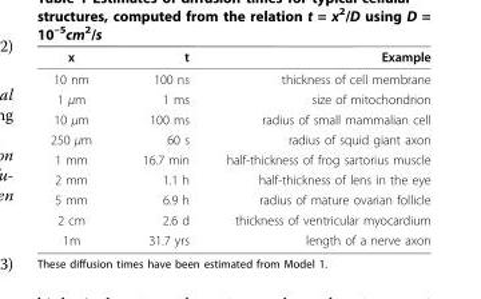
<table><thead><tr><td>x</td><td>t</td><td>Example</td></tr></thead><tbody><tr><td>10 nm</td><td>100 ns</td><td>thickness of cell membrane</td></tr><tr><td>1 μm</td><td>1 ms</td><td>size of mitochondrion</td></tr><tr><td>10 μm</td><td>100 ms</td><td>radius of small mammalian cell</td></tr><tr><td>250 μm</td><td>60 s</td><td>radius of squid giant axon</td></tr><tr><td>1 mm</td><td>16.7 min</td><td>half-thickness of frog sartorius muscle</td></tr><tr><td>2 mm</td><td>1.1 h</td><td>half-thickness of lens in the eye</td></tr><tr><td>5 mm</td><td>6.9 h</td><td>radius of mature ovarian follicle</td></tr><tr><td>2 cm</td><td>2.6 d</td><td>thickness of ventricular myocardium</td></tr><tr><td>1m</td><td>31.7 yrs</td><td>length of a nerve axon</td></tr></tbody></table>